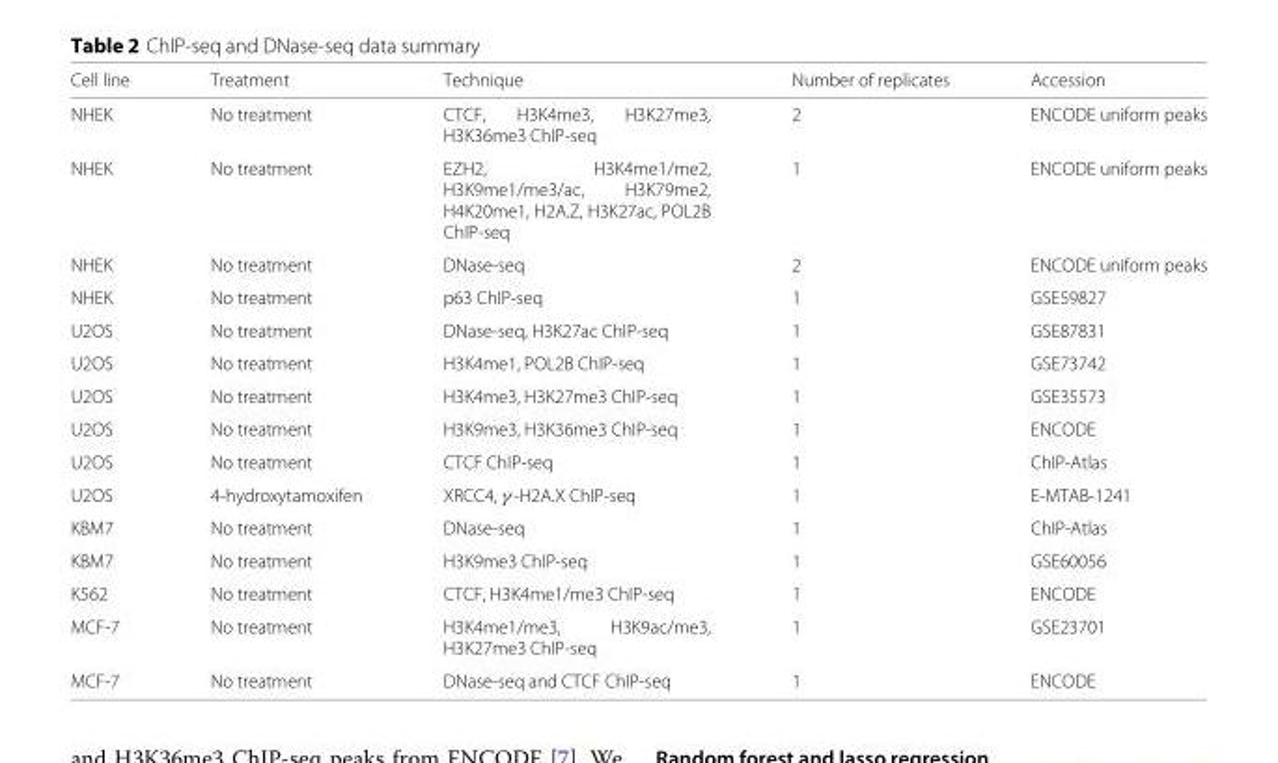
<table><thead><tr><td>Cell line</td><td>Treatment</td><td>Technique</td><td>Number of replicates</td><td>Accession</td></tr></thead><tbody><tr><td>NHEK</td><td>No treatment</td><td>CTCF, H3K4me3, H3K27me3, H3K36me3 ChIP-seq</td><td>2</td><td>ENCODE uniform peaks</td></tr><tr><td>NHEK</td><td>No treatment</td><td>EZH2, H3K4me1/me2, H3K9me1/me3/ac, H3K79me2, H4K20me1, H2A.Z, H3K27ac, POL2B ChIP-seq</td><td>1</td><td>ENCODE uniform peaks</td></tr><tr><td>NHEK</td><td>No treatment</td><td>DNase-seq</td><td>2</td><td>ENCODE uniform peaks</td></tr><tr><td>NHEK</td><td>No treatment</td><td>p63 ChIP-seq</td><td>1</td><td>GSE59827</td></tr><tr><td>U2OS</td><td>No treatment</td><td>DNase-seq, H3K27ac ChIP-seq</td><td>1</td><td>GSE87831</td></tr><tr><td>U2OS</td><td>No treatment</td><td>H3K4me1, POL2B ChIP-seq</td><td>1</td><td>GSE73742</td></tr><tr><td>U2OS</td><td>No treatment</td><td>H3K4me3, H3K27me3 ChIP-seq</td><td>1</td><td>GSE35573</td></tr><tr><td>U2OS</td><td>No treatment</td><td>H3K9me3, H3K36me3 ChIP-seq</td><td>1</td><td>ENCODE</td></tr><tr><td>U2OS</td><td>No treatment</td><td>CTCF ChIP-seq</td><td>1</td><td>ChIP-Atlas</td></tr><tr><td>U2OS</td><td>4-hydroxytamoxifen</td><td>XRCC4, γ -H2A.X ChIP-seq</td><td>1</td><td>E-MTAB-1241</td></tr><tr><td>KBM7</td><td>No treatment</td><td>DNase-seq</td><td>1</td><td>ChIP-Atlas</td></tr><tr><td>KBM7</td><td>No treatment</td><td>H3K9me3 ChIP-seq</td><td>1</td><td>GSE60056</td></tr><tr><td>K562</td><td>No treatment</td><td>CTCF, H3K4me1/me3 ChIP-seq</td><td>1</td><td>ENCODE</td></tr><tr><td>MCF-7</td><td>No treatment</td><td>H3K4me1/me3, H3K9ac/me3, H3K27me3 ChIP-seq</td><td>1</td><td>GSE23701</td></tr><tr><td>MCF-7</td><td>No treatment</td><td>DNase-seq and CTCF ChIP-seq</td><td>1</td><td>ENCODE</td></tr></tbody></table>